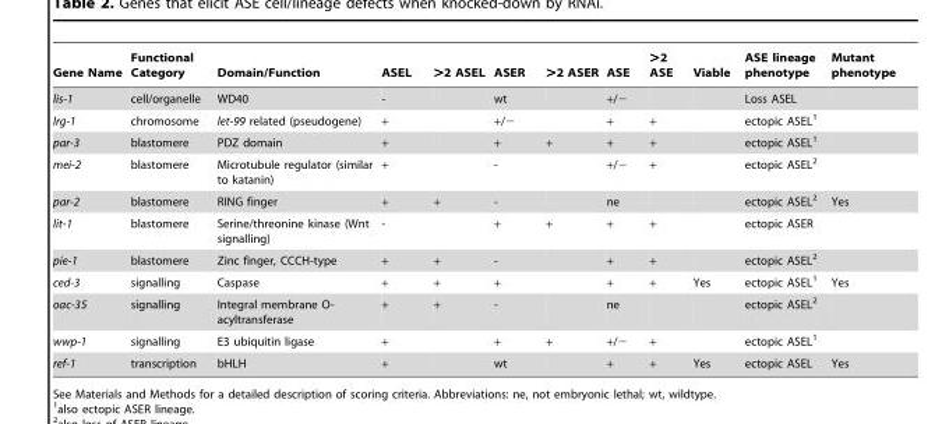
<table><thead><tr><td>Gene Name</td><td>Functional Category</td><td>Domain/Function</td><td>ASEL</td><td>&gt;2 ASEL</td><td>ASER</td><td>&gt;2 ASER</td><td>ASE</td><td>&gt;2 ASE</td><td>Viable</td><td>ASE lineage phenotype</td><td>Mutant phenotype</td></tr></thead><tbody><tr><td>lis-1</td><td>cell/organelle</td><td>WD40</td><td>-</td><td></td><td>wt</td><td></td><td>+/−</td><td></td><td></td><td>Loss ASEL</td><td></td></tr><tr><td>lrg-1</td><td>chromosome</td><td>let-99 related (pseudogene)</td><td>+</td><td></td><td>+/−</td><td></td><td>+</td><td>+</td><td></td><td>ectopic ASEL<sup>1</sup></td><td></td></tr><tr><td>par-3</td><td>blastomere</td><td>PDZ domain</td><td>+</td><td></td><td>+</td><td>+</td><td>+</td><td>+</td><td></td><td>ectopic ASEL<sup>1</sup></td><td></td></tr><tr><td>mei-2</td><td>blastomere</td><td>Microtubule regulator (similar to katanin)</td><td>+</td><td></td><td>-</td><td></td><td>+/−</td><td>+</td><td></td><td>ectopic ASEL<sup>2</sup></td><td></td></tr><tr><td>par-2</td><td>blastomere</td><td>RING finger</td><td>+</td><td>+</td><td>-</td><td></td><td>ne</td><td></td><td></td><td>ectopic ASEL<sup>2</sup></td><td>Yes</td></tr><tr><td>lit-1</td><td>blastomere</td><td>Serine/threonine kinase (Wnt signalling)</td><td>-</td><td></td><td>+</td><td>+</td><td>+</td><td>+</td><td></td><td>ectopic ASER</td><td></td></tr><tr><td>pie-1</td><td>blastomere</td><td>Zinc finger, CCCH-type</td><td>+</td><td>+</td><td>-</td><td></td><td>+</td><td>+</td><td></td><td>ectopic ASEL<sup>2</sup></td><td></td></tr><tr><td>ced-3</td><td>signalling</td><td>Caspase</td><td>+</td><td>+</td><td>+</td><td></td><td>+</td><td>+</td><td>Yes</td><td>ectopic ASEL<sup>1</sup></td><td>Yes</td></tr><tr><td>oac-35</td><td>signalling</td><td>Integral membrane O- acyltransferase</td><td>+</td><td>+</td><td>-</td><td></td><td>ne</td><td></td><td></td><td>ectopic ASEL<sup>2</sup></td><td></td></tr><tr><td>wwp-1</td><td>signalling</td><td>E3 ubiquitin ligase</td><td>+</td><td></td><td>+</td><td>+</td><td>+/−</td><td>+</td><td></td><td>ectopic ASEL<sup>1</sup></td><td></td></tr><tr><td>ref-1</td><td>transcription</td><td>bHLH</td><td>+</td><td></td><td>wt</td><td></td><td>+</td><td>+</td><td>Yes</td><td>ectopic ASEL</td><td>Yes</td></tr></tbody></table>